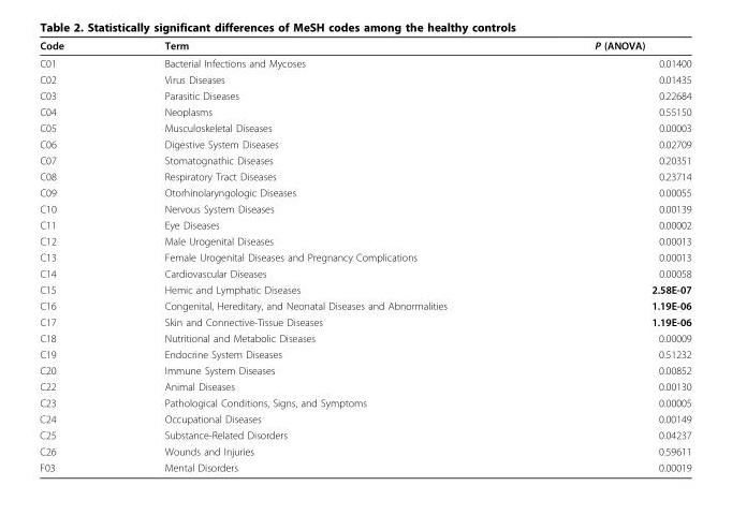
<table><thead><tr><td>Code</td><td>Term</td><td>P (ANOVA)</td></tr></thead><tbody><tr><td>C01</td><td>Bacterial Infections and Mycoses</td><td>0.01400</td></tr><tr><td>C02</td><td>Virus Diseases</td><td>0.01435</td></tr><tr><td>C03</td><td>Parasitic Diseases</td><td>0.22684</td></tr><tr><td>C04</td><td>Neoplasms</td><td>0.55150</td></tr><tr><td>C05</td><td>Musculoskeletal Diseases</td><td>0.00003</td></tr><tr><td>C06</td><td>Digestive System Diseases</td><td>0.02709</td></tr><tr><td>C07</td><td>Stomatognathic Diseases</td><td>0.20351</td></tr><tr><td>C08</td><td>Respiratory Tract Diseases</td><td>0.23714</td></tr><tr><td>C09</td><td>Otorhinolaryngologic Diseases</td><td>0.00055</td></tr><tr><td>C10</td><td>Nervous System Diseases</td><td>0.00139</td></tr><tr><td>C11</td><td>Eye Diseases</td><td>0.00002</td></tr><tr><td>C12</td><td>Male Urogenital Diseases</td><td>0.00013</td></tr><tr><td>C13</td><td>Female Urogenital Diseases and Pregnancy Complications</td><td>0.00013</td></tr><tr><td>C14</td><td>Cardiovascular Diseases</td><td>0.00058</td></tr><tr><td>C15</td><td>Hemic and Lymphatic Diseases</td><td>2.58E-07</td></tr><tr><td>C16</td><td>Congenital, Hereditary, and Neonatal Diseases and Abnormalities</td><td>1.19E-06</td></tr><tr><td>C17</td><td>Skin and Connective-Tissue Diseases</td><td>1.19E-06</td></tr><tr><td>C18</td><td>Nutritional and Metabolic Diseases</td><td>0.00009</td></tr><tr><td>C19</td><td>Endocrine System Diseases</td><td>0.51232</td></tr><tr><td>C20</td><td>Immune System Diseases</td><td>0.00852</td></tr><tr><td>C22</td><td>Animal Diseases</td><td>0.00130</td></tr><tr><td>C23</td><td>Pathological Conditions, Signs, and Symptoms</td><td>0.00005</td></tr><tr><td>C24</td><td>Occupational Diseases</td><td>0.00149</td></tr><tr><td>C25</td><td>Substance-Related Disorders</td><td>0.04237</td></tr><tr><td>C26</td><td>Wounds and Injuries</td><td>0.59611</td></tr><tr><td>F03</td><td>Mental Disorders</td><td>0.00019</td></tr></tbody></table>